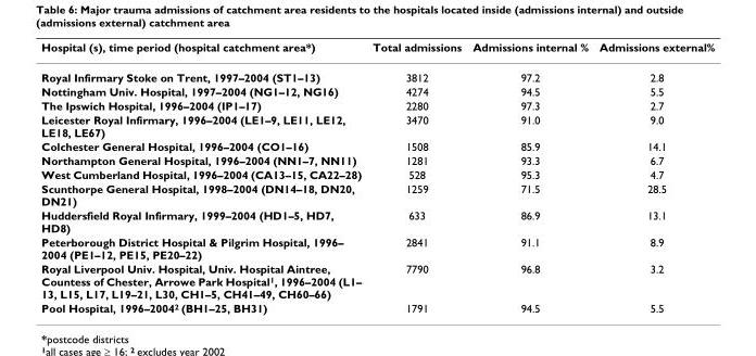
<table><thead><tr><td>Hospital (s), time period (hospital catchment area*)</td><td>Total admissions</td><td>Admissions internal %</td><td>Admissions external%</td></tr></thead><tbody><tr><td>Royal Infirmary Stoke on Trent, 1997–2004 (ST1–13)</td><td>3812</td><td>97.2</td><td>2.8</td></tr><tr><td>Nottingham Univ. Hospital, 1997–2004 (NG1–12, NG16)</td><td>4274</td><td>94.5</td><td>5.5</td></tr><tr><td>The Ipswich Hospital, 1996–2004 (IP1–17)</td><td>2280</td><td>97.3</td><td>2.7</td></tr><tr><td>Leicester Royal Infirmary, 1996–2004 (LE1–9, LE11, LE12, LE18, LE67)</td><td>3470</td><td>91.0</td><td>9.0</td></tr><tr><td>Colchester General Hospital, 1996–2004 (CO1–16)</td><td>1508</td><td>85.9</td><td>14.1</td></tr><tr><td>Northampton General Hospital, 1996–2004 (NN1–7, NN11)</td><td>1281</td><td>93.3</td><td>6.7</td></tr><tr><td>West Cumberland Hospital, 1996–2004 (CA13–15, CA22–28)</td><td>528</td><td>95.3</td><td>4.7</td></tr><tr><td>Scunthorpe General Hospital, 1998–2004 (DN14–18, DN20, DN21)</td><td>1259</td><td>71.5</td><td>28.5</td></tr><tr><td>Huddersfield Royal Infirmary, 1999–2004 (HD1–5, HD7, HD8)</td><td>633</td><td>86.9</td><td>13.1</td></tr><tr><td>Peterborough District Hospital &amp; Pilgrim Hospital, 1996– 2004 (PE1–12, PE15, PE20–22)</td><td>2841</td><td>91.1</td><td>8.9</td></tr><tr><td>Royal Liverpool Univ. Hospital, Univ. Hospital Aintree, Countess of Chester, Arrowe Park Hospital<sup>1</sup>, 1996–2004 (L1– 13, L15, L17, L19–21, L30, CH1–5, CH41–49, CH60–66)</td><td>7790</td><td>96.8</td><td>3.2</td></tr><tr><td>Pool Hospital, 1996–2004<sup>2</sup> (BH1–25, BH31)</td><td>1791</td><td>94.5</td><td>5.5</td></tr></tbody></table>